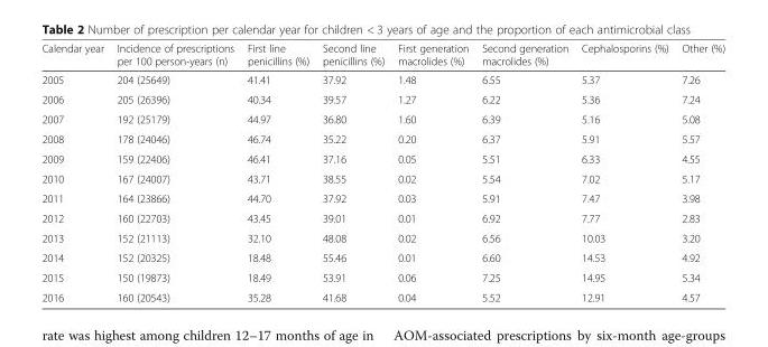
<table><thead><tr><td>Calendar year</td><td>Incidence of prescriptions per 100 person-years (n)</td><td>First line penicillins (%)</td><td>Second line penicillins (%)</td><td>First generation macrolides (%)</td><td>Second generation macrolides (%)</td><td>Cephalosporins (%)</td><td>Other (%)</td></tr></thead><tbody><tr><td>2005</td><td>204 (25649)</td><td>41.41</td><td>37.92</td><td>1.48</td><td>6.55</td><td>5.37</td><td>7.26</td></tr><tr><td>2006</td><td>205 (26396)</td><td>40.34</td><td>39.57</td><td>1.27</td><td>6.22</td><td>5.36</td><td>7.24</td></tr><tr><td>2007</td><td>192 (25179)</td><td>44.97</td><td>36.80</td><td>1.60</td><td>6.39</td><td>5.16</td><td>5.08</td></tr><tr><td>2008</td><td>178 (24046)</td><td>46.74</td><td>35.22</td><td>0.20</td><td>6.37</td><td>5.91</td><td>5.57</td></tr><tr><td>2009</td><td>159 (22406)</td><td>46.41</td><td>37.16</td><td>0.05</td><td>5.51</td><td>6.33</td><td>4.55</td></tr><tr><td>2010</td><td>167 (24007)</td><td>43.71</td><td>38.55</td><td>0.02</td><td>5.54</td><td>7.02</td><td>5.17</td></tr><tr><td>2011</td><td>164 (23866)</td><td>44.70</td><td>37.92</td><td>0.03</td><td>5.91</td><td>7.47</td><td>3.98</td></tr><tr><td>2012</td><td>160 (22703)</td><td>43.45</td><td>39.01</td><td>0.01</td><td>6.92</td><td>7.77</td><td>2.83</td></tr><tr><td>2013</td><td>152 (21113)</td><td>32.10</td><td>48.08</td><td>0.02</td><td>6.56</td><td>10.03</td><td>3.20</td></tr><tr><td>2014</td><td>152 (20325)</td><td>18.48</td><td>55.46</td><td>0.01</td><td>6.60</td><td>14.53</td><td>4.92</td></tr><tr><td>2015</td><td>150 (19873)</td><td>18.49</td><td>53.91</td><td>0.06</td><td>7.25</td><td>14.95</td><td>5.34</td></tr><tr><td>2016</td><td>160 (20543)</td><td>35.28</td><td>41.68</td><td>0.04</td><td>5.52</td><td>12.91</td><td>4.57</td></tr></tbody></table>